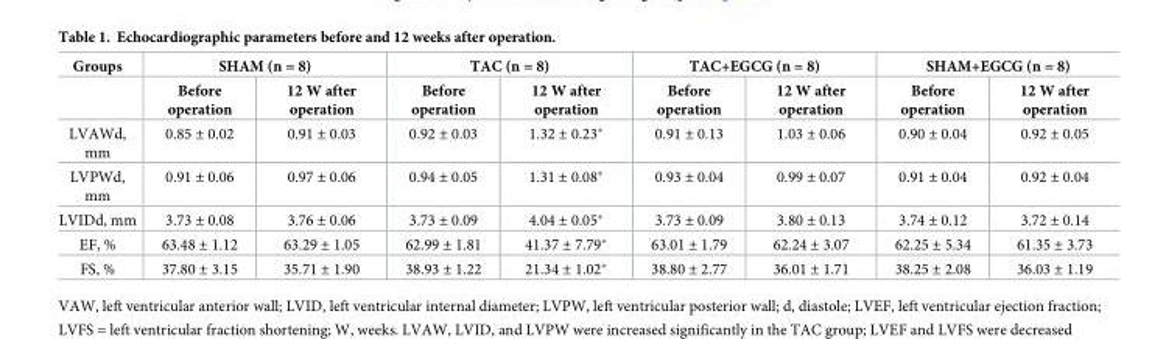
<table><thead><tr><td rowspan="2">Groups</td><td colspan="2">SHAM (n = 8)</td><td colspan="2">TAC (n = 8)</td><td colspan="2">TAC+EGCG (n = 8)</td><td colspan="2">SHAM+EGCG (n = 8)</td></tr><tr><td>Before operation</td><td>12 W after operation</td><td>Before operation</td><td>12 W after operation</td><td>Before operation</td><td>12 W after operation</td><td>Before operation</td><td>12 W after operation</td></tr></thead><tbody><tr><td>LVAWd, mm</td><td>0.85 ± 0.02</td><td>0.91 ± 0.03</td><td>0.92 ± 0.03</td><td>1.32 ± 0.23*</td><td>0.91 ± 0.13</td><td>1.03 ± 0.06</td><td>0.90 ± 0.04</td><td>0.92 ± 0.05</td></tr><tr><td>LVPWd, mm</td><td>0.91 ± 0.06</td><td>0.97 ± 0.06</td><td>0.94 ± 0.05</td><td>1.31 ± 0.08*</td><td>0.93 ± 0.04</td><td>0.99 ± 0.07</td><td>0.91 ± 0.04</td><td>0.92 ± 0.04</td></tr><tr><td>LVIDd, mm</td><td>3.73 ± 0.08</td><td>3.76 ± 0.06</td><td>3.73 ± 0.09</td><td>4.04 ± 0.05*</td><td>3.73 ± 0.09</td><td>3.80 ± 0.13</td><td>3.74 ± 0.12</td><td>3.72 ± 0.14</td></tr><tr><td>EF, %</td><td>63.48 ± 1.12</td><td>63.29 ± 1.05</td><td>62.99 ± 1.81</td><td>41.37 ± 7.79*</td><td>63.01 ± 1.79</td><td>62.24 ± 3.07</td><td>62.25 ± 5.34</td><td>61.35 ± 3.73</td></tr><tr><td>FS, %</td><td>37.80 ± 3.15</td><td>35.71 ± 1.90</td><td>38.93 ± 1.22</td><td>21.34 ± 1.02*</td><td>38.80 ± 2.77</td><td>36.01 ± 1.71</td><td>38.25 ± 2.08</td><td>36.03 ± 1.19</td></tr></tbody></table>